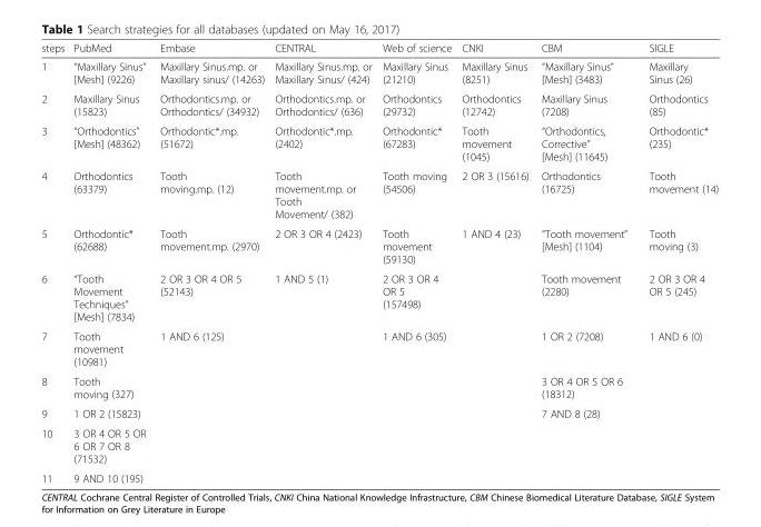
<table><thead><tr><td>steps</td><td>PubMed</td><td>Embase</td><td>CENTRAL</td><td>Web of science</td><td>CNKI</td><td>CBM</td><td>SIGLE</td></tr></thead><tbody><tr><td>1</td><td>“Maxillary Sinus” [Mesh] (9226)</td><td>Maxillary Sinus.mp. or Maxillary sinus/ (14263)</td><td>Maxillary Sinus.mp. or Maxillary Sinus/ (424)</td><td>Maxillary Sinus (21210)</td><td>Maxillary Sinus (8251)</td><td>“Maxillary Sinus” [Mesh] (3483)</td><td>Maxillary Sinus (26)</td></tr><tr><td>2</td><td>Maxillary Sinus (15823)</td><td>Orthodontics.mp. or Orthodontics/ (34932)</td><td>Orthodontics.mp. or Orthodontics/ (636)</td><td>Orthodontics (29732)</td><td>Orthodontics (12742)</td><td>Maxillary Sinus (7208)</td><td>Orthodontics (85)</td></tr><tr><td>3</td><td>“Orthodontics” [Mesh] (48362)</td><td>Orthodontic*.mp. (51672)</td><td>Orthodontic*.mp. (2402)</td><td>Orthodontic* (67283)</td><td>Tooth movement (1045)</td><td>“Orthodontics, Corrective” [Mesh] (11645)</td><td>Orthodontic* (235)</td></tr><tr><td>4</td><td>Orthodontics (63379)</td><td>Tooth moving.mp. (12)</td><td>Tooth movement.mp. or Tooth Movement/ (382)</td><td>Tooth moving (54506)</td><td>2 OR 3 (15616)</td><td>Orthodontics (16725)</td><td>Tooth movement (14)</td></tr><tr><td>5</td><td>Orthodontic* (62688)</td><td>Tooth movement.mp. (2970)</td><td>2 OR 3 OR 4 (2423)</td><td>Tooth movement (59130)</td><td>1 AND 4 (23)</td><td>“Tooth movement” [Mesh] (1104)</td><td>Tooth moving (3)</td></tr><tr><td>6</td><td>“Tooth Movement Techniques” [Mesh] (7834)</td><td>2 OR 3 OR 4 OR 5 (52143)</td><td>1 AND 5 (1)</td><td>2 OR 3 OR 4 OR 5 (157498)</td><td></td><td>Tooth movement (2280)</td><td>2 OR 3 OR 4 OR 5 (245)</td></tr><tr><td>7</td><td>Tooth movement (10981)</td><td>1 AND 6 (125)</td><td></td><td>1 AND 6 (305)</td><td></td><td>1 OR 2 (7208)</td><td>1 AND 6 (0)</td></tr><tr><td>8</td><td>Tooth moving (327)</td><td></td><td></td><td></td><td></td><td>3 OR 4 OR 5 OR 6 (18312)</td><td></td></tr><tr><td>9</td><td>1 OR 2 (15823)</td><td></td><td></td><td></td><td></td><td>7 AND 8 (28)</td><td></td></tr><tr><td>10</td><td>3 OR 4 OR 5 OR 6 OR 7 OR 8 (71532)</td><td></td><td></td><td></td><td></td><td></td><td></td></tr><tr><td>11</td><td>9 AND 10 (195)</td><td></td><td></td><td></td><td></td><td></td><td></td></tr></tbody></table>